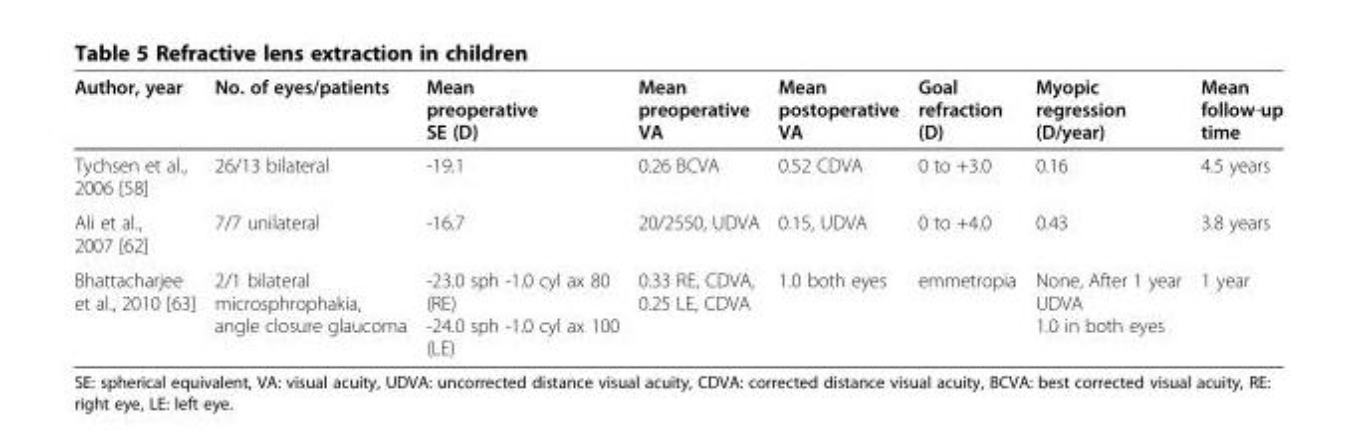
<table><thead><tr><td>Author, year</td><td>No. of eyes/patients</td><td>Mean preoperative SE (D)</td><td>Mean preoperative VA</td><td>Mean postoperative VA</td><td>Goal refraction (D)</td><td>Myopic regression (D/year)</td><td>Mean follow-up time</td></tr></thead><tbody><tr><td>Tychsen et al., 2006 [58]</td><td>26/13 bilateral</td><td>-19.1</td><td>0.26 BCVA</td><td>0.52 CDVA</td><td>0 to +3.0</td><td>0.16</td><td>4.5 years</td></tr><tr><td>Ali et al., 2007 [62]</td><td>7/7 unilateral</td><td>-16.7</td><td>20/2550, UDVA</td><td>0.15, UDVA</td><td>0 to +4.0</td><td>0.43</td><td>3.8 years</td></tr><tr><td>Bhattacharjee et al., 2010 [63]</td><td>2/1 bilateral microsphrophakia, angle closure glaucoma</td><td>-23.0 sph -1.0 cyl ax 80 (RE) -24.0 sph -1.0 cyl ax 100 (LE)</td><td>0.33 RE, CDVA, 0.25 LE, CDVA</td><td>1.0 both eyes</td><td>emmetropia</td><td>None, After 1 year UDVA 1.0 in both eyes</td><td>1 year</td></tr></tbody></table>